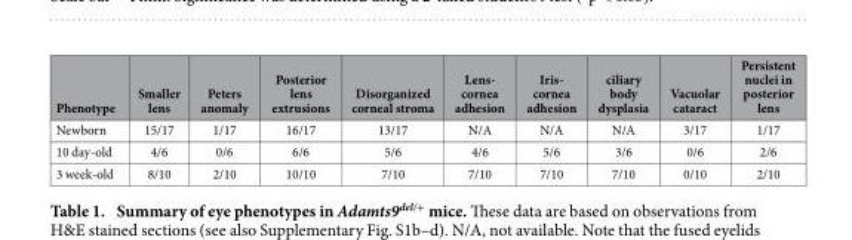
<table><thead><tr><td>Phenotype</td><td>Smaller lens</td><td>Peters anomaly</td><td>Posterior lens extrusions</td><td>Disorganized corneal stroma</td><td>Lens- cornea adhesion</td><td>Iris- cornea adhesion</td><td>ciliary body dysplasia</td><td>Vacuolar cataract</td><td>Persistent nuclei in posterior lens</td></tr></thead><tbody><tr><td>Newborn</td><td>15/17</td><td>1/17</td><td>16/17</td><td>13/17</td><td>N/A</td><td>N/A</td><td>N/A</td><td>3/17</td><td>1/17</td></tr><tr><td>10 day-old</td><td>4/6</td><td>0/6</td><td>6/6</td><td>5/6</td><td>4/6</td><td>5/6</td><td>3/6</td><td>0/6</td><td>2/6</td></tr><tr><td>3 week-old</td><td>8/10</td><td>2/10</td><td>10/10</td><td>7/10</td><td>7/10</td><td>7/10</td><td>7/10</td><td>0/10</td><td>2/10</td></tr></tbody></table>